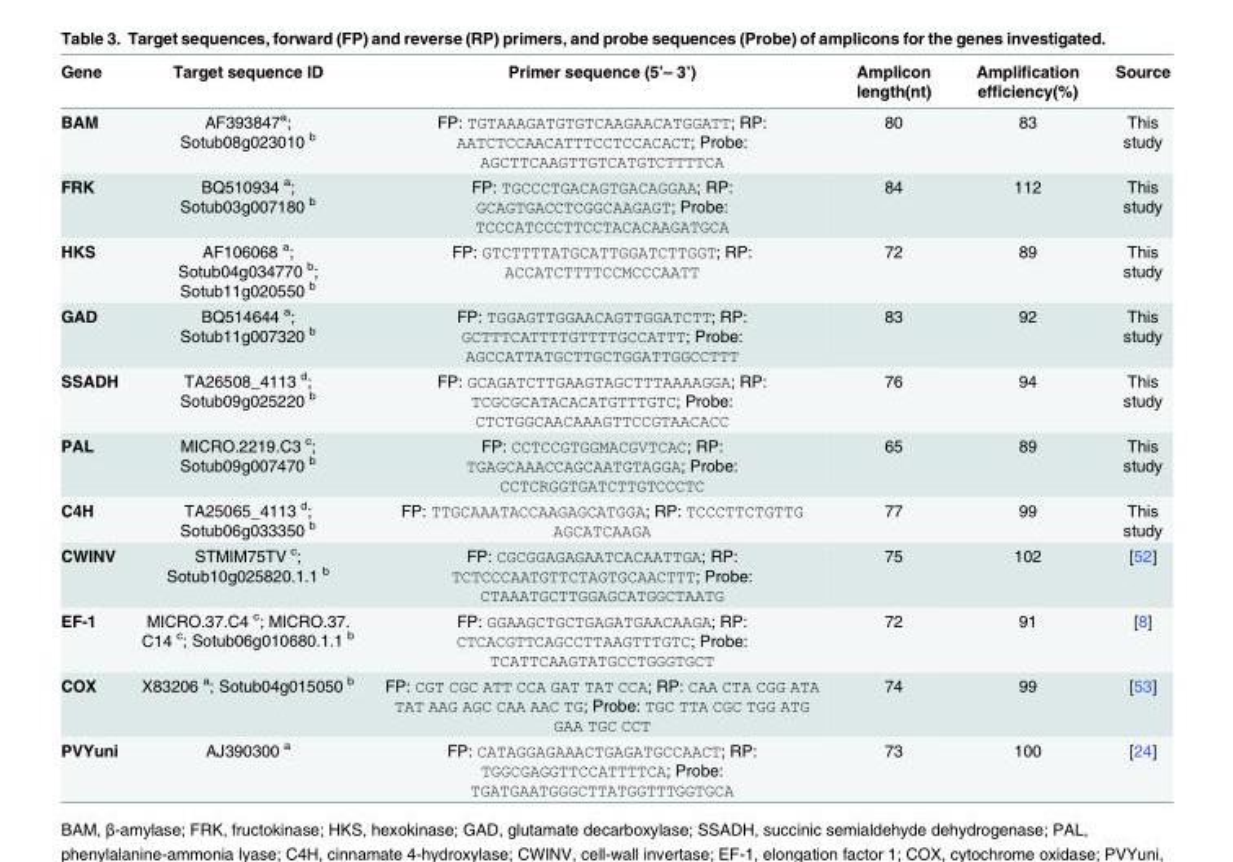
<table><thead><tr><td>Gene</td><td>Target sequence ID</td><td>Primer sequence (5’– 3’)</td><td>Amplicon length(nt)</td><td>Amplification efficiency(%)</td><td>Source</td></tr></thead><tbody><tr><td>BAM</td><td>AF393847<sup>a</sup>; Sotub08g023010 <sup>b</sup></td><td>FP: TGTAAAGATGTGTCAAGAACATGGATT; RP: AATCTCCAACATTTCCTCCACACT; Probe: AGCTTCAAGTTGTCATGTCTTTTCA</td><td>80</td><td>83</td><td>This study</td></tr><tr><td>FRK</td><td>BQ510934 <sup>a</sup>; Sotub03g007180 <sup>b</sup></td><td>FP: TGCCCTGACAGTGACAGGAA; RP: GCAGTGACCTCGGCAAGAGT; Probe: TCCCATCCCTTCCTACACAAGATGCA</td><td>84</td><td>112</td><td>This study</td></tr><tr><td>HKS</td><td>AF106068 <sup>a</sup>; Sotub04g034770 <sup>b</sup>; Sotub11g020550 <sup>b</sup></td><td>FP: GTCTTTTATGCATTGGATCTTGGT; RP: ACCATCTTTTCCMCCCAATT</td><td>72</td><td>89</td><td>This study</td></tr><tr><td>GAD</td><td>BQ514644 <sup>a</sup>; Sotub11g007320 <sup>b</sup></td><td>FP: TGGAGTTGGAACAGTTGGATCTT; RP: GCTTTCATTTTGTTTTGCCATTT; Probe: AGCCATTATGCTTGCTGGATTGGCCTTT</td><td>83</td><td>92</td><td>This study</td></tr><tr><td>SSADH</td><td>TA26508_4113 <sup>d</sup>; Sotub09g025220 <sup>b</sup></td><td>FP: GCAGATCTTGAAGTAGCTTTAAAAGGA; RP: TCGCGCATACACATGTTTGTC; Probe: CTCTGGCAACAAAGTTCCGTAACACC</td><td>76</td><td>94</td><td>This study</td></tr><tr><td>PAL</td><td>MICRO.2219.C3 <sup>c</sup>; Sotub09g007470 <sup>b</sup></td><td>FP: CCTCCGTGGMACGVTCAC; RP: TGAGCAAACCAGCAATGTAGGA; Probe: CCTCRGGTGATCTTGTCCCTC</td><td>65</td><td>89</td><td>This study</td></tr><tr><td>C4H</td><td>TA25065_4113 <sup>d</sup>; Sotub06g033350 <sup>b</sup></td><td>FP: TTGCAAATACCAAGAGCATGGA; RP: TCCCTTCTGTTG AGCATCAAGA</td><td>77</td><td>99</td><td>This study</td></tr><tr><td>CWINV</td><td>STMIM75TV <sup>c</sup>; Sotub10g025820.1.1 <sup>b</sup></td><td>FP: CGCGGAGAGAATCACAATTGA; RP: TCTCCCAATGTTCTAGTGCAACTTT; Probe: CTAAATGCTTGGAGCATGGCTAATG</td><td>75</td><td>102</td><td>[52]</td></tr><tr><td>EF-1</td><td>MICRO.37.C4 <sup>c</sup>; MICRO.37. C14 <sup>c</sup>; Sotub06g010680.1.1 <sup>b</sup></td><td>FP: GGAAGCTGCTGAGATGAACAAGA; RP: CTCACGTTCAGCCTTAAGTTTGTC; Probe: TCATTCAAGTATGCCTGGGTGCT</td><td>72</td><td>91</td><td>[8]</td></tr><tr><td>COX</td><td>X83206 <sup>a</sup>; Sotub04g015050 <sup>b</sup></td><td>FP: CGT CGC ATT CCA GAT TAT CCA; RP: CAA CTA CGG ATA TAT AAG AGC CAA AAC TG; Probe: TGC TTA CGC TGG ATG GAA TGC CCT</td><td>74</td><td>99</td><td>[53]</td></tr><tr><td>PVYuni</td><td>AJ390300 <sup>a</sup></td><td>FP: CATAGGAGAAACTGAGATGCCAACT; RP: TGGCGAGGTTCCATTTTCA; Probe: TGATGAATGGGCTTATGGTTTGGTGCA</td><td>73</td><td>100</td><td>[24]</td></tr></tbody></table>